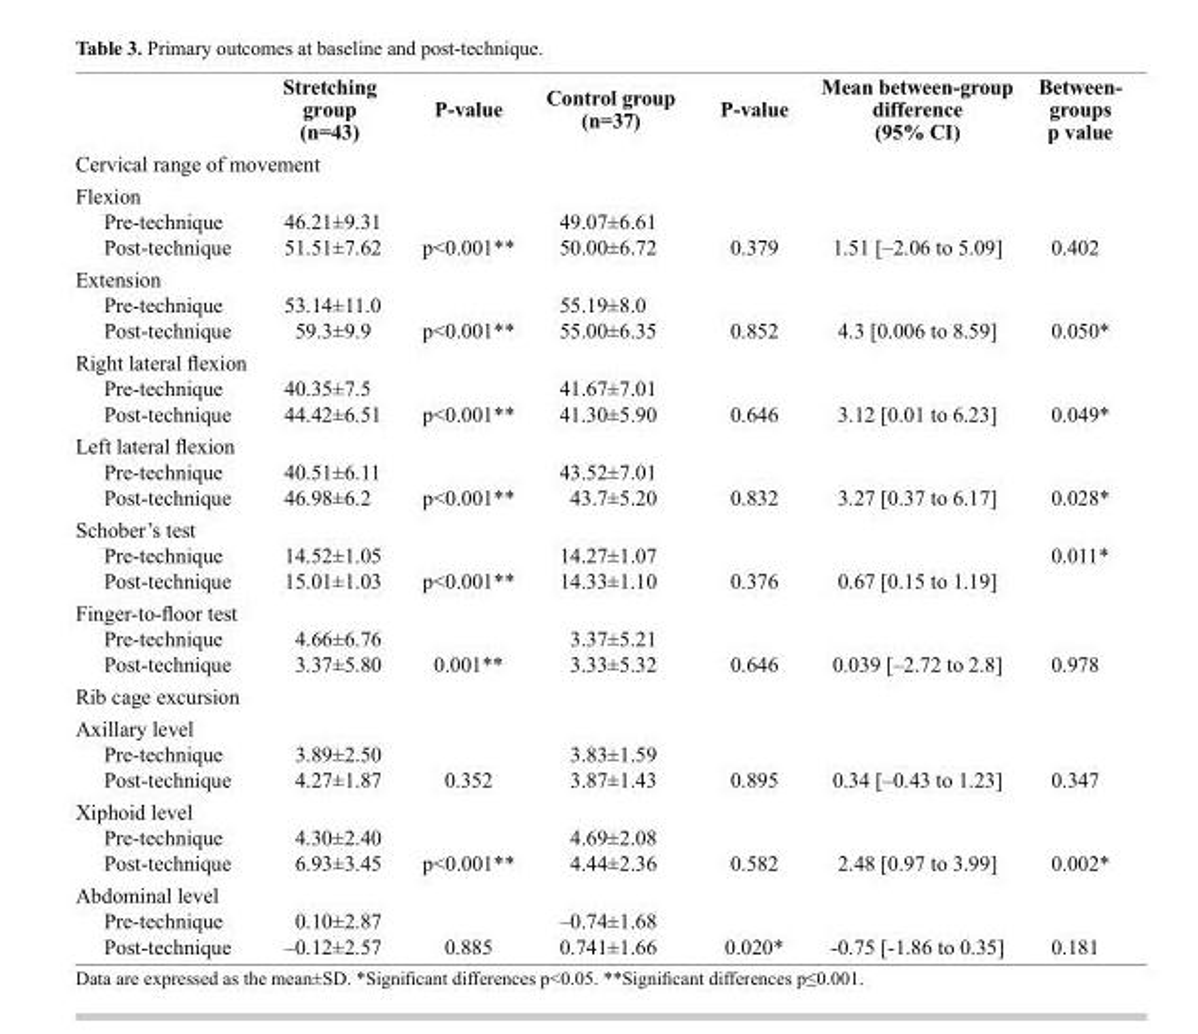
<table><thead><tr><td></td><td>Stretching group (n=43)</td><td>P-value</td><td>Control group (n=37)</td><td>P-value</td><td>Mean between-group difference (95% CI)</td><td>Between- groups p value</td></tr></thead><tbody><tr><td colspan="7">Cervical range of movement</td></tr><tr><td>Flexion Pre-technique Post-technique</td><td>46.21±9.31 51.51±7.62</td><td>p&lt;0.001**</td><td>49.07±6.61 50.00±6.72</td><td>0.379</td><td>1.51 [–2.06 to 5.09]</td><td>0.402</td></tr><tr><td>Extension Pre-technique Post-technique</td><td>53.14±11.0 59.3±9.9</td><td>p&lt;0.001**</td><td>55.19±8.0 55.00±6.35</td><td>0.852</td><td>4.3 [0.006 to 8.59]</td><td>0.050*</td></tr><tr><td>Right lateral flexion Pre-technique Post-technique</td><td>40.35±7.5 44.42±6.51</td><td>p&lt;0.001**</td><td>41.67±7.01 41.30±5.90</td><td>0.646</td><td>3.12 [0.01 to 6.23]</td><td>0.049*</td></tr><tr><td>Left lateral flexion Pre-technique Post-technique</td><td>40.51±6.11 46.98±6.2</td><td>p&lt;0.001**</td><td>43.52±7.01 43.7±5.20</td><td>0.832</td><td>3.27 [0.37 to 6.17]</td><td>0.028*</td></tr><tr><td>Schober’s test Pre-technique Post-technique</td><td>14.52±1.05 15.01±1.03</td><td>p&lt;0.001**</td><td>14.27±1.07 14.33±1.10</td><td>0.376</td><td>0.67 [0.15 to 1.19]</td><td>0.011*</td></tr><tr><td>Finger-to-floor test Pre-technique Post-technique</td><td>4.66±6.76 3.37±5.80</td><td>0.001**</td><td>3.37±5.21 3.33±5.32</td><td>0.646</td><td>0.039 [–2.72 to 2.8]</td><td>0.978</td></tr><tr><td colspan="7">Rib cage excursion</td></tr><tr><td>Axillary level Pre-technique Post-technique</td><td>3.89±2.50 4.27±1.87</td><td>0.352</td><td>3.83±1.59 3.87±1.43</td><td>0.895</td><td>0.34 [–0.43 to 1.23]</td><td>0.347</td></tr><tr><td>Xiphoid level Pre-technique Post-technique</td><td>4.30±2.40 6.93±3.45</td><td>p&lt;0.001**</td><td>4.69±2.08 4.44±2.36</td><td>0.582</td><td>2.48 [0.97 to 3.99]</td><td>0.002*</td></tr><tr><td>Abdominal level Pre-technique Post-technique</td><td>0.10±2.87 –0.12±2.57</td><td>0.885</td><td>–0.74±1.68 0.741±1.66</td><td>0.020*</td><td>-0.75 [-1.86 to 0.35]</td><td>0.181</td></tr></tbody></table>